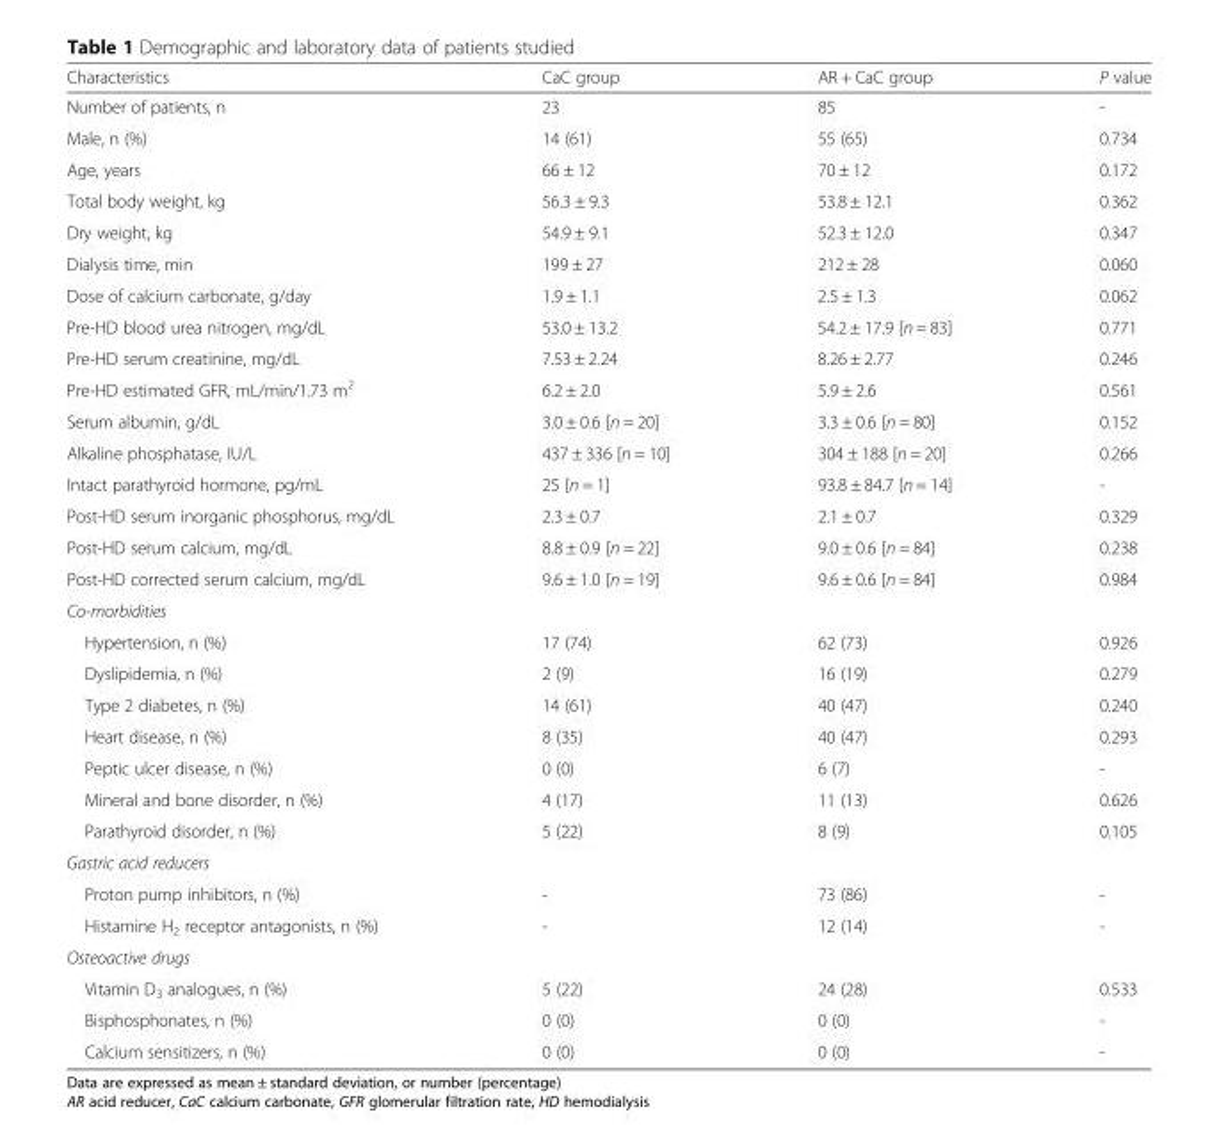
<table><thead><tr><td>Characteristics</td><td>CaC group</td><td>AR + CaC group</td><td>P value</td></tr></thead><tbody><tr><td>Number of patients, n</td><td>23</td><td>85</td><td>-</td></tr><tr><td>Male, n (%)</td><td>14 (61)</td><td>55 (65)</td><td>0.734</td></tr><tr><td>Age, years</td><td>66 ± 12</td><td>70 ± 12</td><td>0.172</td></tr><tr><td>Total body weight, kg</td><td>56.3 ± 9.3</td><td>53.8 ± 12.1</td><td>0.362</td></tr><tr><td>Dry weight, kg</td><td>54.9 ± 9.1</td><td>52.3 ± 12.0</td><td>0.347</td></tr><tr><td>Dialysis time, min</td><td>199 ± 27</td><td>212 ± 28</td><td>0.060</td></tr><tr><td>Dose of calcium carbonate, g/day</td><td>1.9 ± 1.1</td><td>2.5 ± 1.3</td><td>0.062</td></tr><tr><td>Pre-HD blood urea nitrogen, mg/dL</td><td>53.0 ± 13.2</td><td>54.2 ± 17.9 [n = 83]</td><td>0.771</td></tr><tr><td>Pre-HD serum creatinine, mg/dL</td><td>7.53 ± 2.24</td><td>8.26 ± 2.77</td><td>0.246</td></tr><tr><td>Pre-HD estimated GFR, mL/min/1.73 m<sup>2</sup></td><td>6.2 ± 2.0</td><td>5.9 ± 2.6</td><td>0.561</td></tr><tr><td>Serum albumin, g/dL</td><td>3.0 ± 0.6 [n = 20]</td><td>3.3 ± 0.6 [n = 80]</td><td>0.152</td></tr><tr><td>Alkaline phosphatase, IU/L</td><td>437 ± 336 [n = 10]</td><td>304 ± 188 [n = 20]</td><td>0.266</td></tr><tr><td>Intact parathyroid hormone, pg/mL</td><td>25 [n = 1]</td><td>93.8 ± 84.7 [n = 14]</td><td>-</td></tr><tr><td>Post-HD serum inorganic phosphorus, mg/dL</td><td>2.3 ± 0.7</td><td>2.1 ± 0.7</td><td>0.329</td></tr><tr><td>Post-HD serum calcium, mg/dL</td><td>8.8 ± 0.9 [n = 22]</td><td>9.0 ± 0.6 [n = 84]</td><td>0.238</td></tr><tr><td>Post-HD corrected serum calcium, mg/dL</td><td>9.6 ± 1.0 [n = 19]</td><td>9.6 ± 0.6 [n = 84]</td><td>0.984</td></tr><tr><td colspan="4">Co-morbidities</td></tr><tr><td>Hypertension, n (%)</td><td>17 (74)</td><td>62 (73)</td><td>0.926</td></tr><tr><td>Dyslipidemia, n (%)</td><td>2 (9)</td><td>16 (19)</td><td>0.279</td></tr><tr><td>Type 2 diabetes, n (%)</td><td>14 (61)</td><td>40 (47)</td><td>0.240</td></tr><tr><td>Heart disease, n (%)</td><td>8 (35)</td><td>40 (47)</td><td>0.293</td></tr><tr><td>Peptic ulcer disease, n (%)</td><td>0 (0)</td><td>6 (7)</td><td>-</td></tr><tr><td>Mineral and bone disorder, n (%)</td><td>4 (17)</td><td>11 (13)</td><td>0.626</td></tr><tr><td>Parathyroid disorder, n (%)</td><td>5 (22)</td><td>8 (9)</td><td>0.105</td></tr><tr><td colspan="4">Gastric acid reducers</td></tr><tr><td>Proton pump inhibitors, n (%)</td><td>-</td><td>73 (86)</td><td>-</td></tr><tr><td>Histamine H<sub>2</sub> receptor antagonists, n (%)</td><td>-</td><td>12 (14)</td><td>-</td></tr><tr><td colspan="4">Osteoactive drugs</td></tr><tr><td>Vitamin D<sub>3</sub> analogues, n (%)</td><td>5 (22)</td><td>24 (28)</td><td>0.533</td></tr><tr><td>Bisphosphonates, n (%)</td><td>0 (0)</td><td>0 (0)</td><td>-</td></tr><tr><td>Calcium sensitizers, n (%)</td><td>0 (0)</td><td>0 (0)</td><td>-</td></tr></tbody></table>